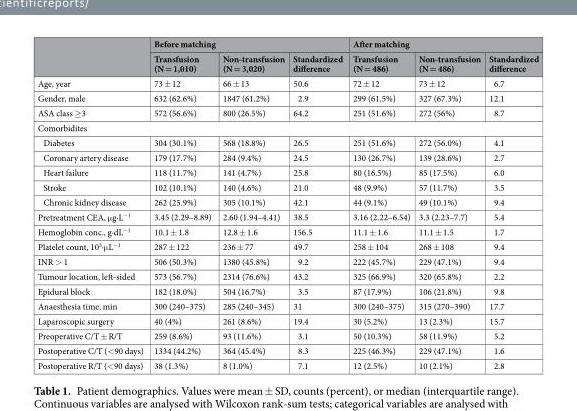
<table><thead><tr><td rowspan="2"></td><td colspan="3">Before matching</td><td colspan="3">After matching</td></tr><tr><td>Transfusion (N = 1,010)</td><td>Non-transfusion (N = 3,020)</td><td>Standardized difference</td><td>Transfusion (N = 486)</td><td>Non-transfusion (N = 486)</td><td>Standardized difference</td></tr></thead><tbody><tr><td>Age, year</td><td>73 ± 12</td><td>66 ± 13</td><td>50.6</td><td>72 ± 12</td><td>73 ± 12</td><td>6.7</td></tr><tr><td>Gender, male</td><td>632 (62.6%)</td><td>1847 (61.2%)</td><td>2.9</td><td>299 (61.5%)</td><td>327 (67.3%)</td><td>12.1</td></tr><tr><td>ASA class ≥3</td><td>572 (56.6%)</td><td>800 (26.5%)</td><td>64.2</td><td>251 (51.6%)</td><td>272 (56%)</td><td>8.7</td></tr><tr><td colspan="7">Comorbidites</td></tr><tr><td>Diabetes</td><td>304 (30.1%)</td><td>568 (18.8%)</td><td>26.5</td><td>251 (51.6%)</td><td>272 (56.0%)</td><td>4.1</td></tr><tr><td>Coronary artery disease</td><td>179 (17.7%)</td><td>284 (9.4%)</td><td>24.5</td><td>130 (26.7%)</td><td>139 (28.6%)</td><td>2.7</td></tr><tr><td>Heart failure</td><td>118 (11.7%)</td><td>141 (4.7%)</td><td>25.8</td><td>80 (16.5%)</td><td>85 (17.5%)</td><td>6.0</td></tr><tr><td>Stroke</td><td>102 (10.1%)</td><td>140 (4.6%)</td><td>21.0</td><td>48 (9.9%)</td><td>57 (11.7%)</td><td>3.5</td></tr><tr><td>Chronic kidney disease</td><td>262 (25.9%)</td><td>305 (10.1%)</td><td>42.1</td><td>44 (9.1%)</td><td>49 (10.1%)</td><td>9.4</td></tr><tr><td>Pretreatment CEA, μg·L<sup>−1</sup></td><td>3.45 (2.29–8.89)</td><td>2.60 (1.94–4.41)</td><td>38.5</td><td>3.16 (2.22–6.54)</td><td>3.3 (2.23–7.7)</td><td>5.4</td></tr><tr><td>Hemoglobin conc., g·dL<sup>−1</sup></td><td>10.1 ± 1.8</td><td>12.8 ± 1.6</td><td>156.5</td><td>11.1 ± 1.6</td><td>11.1 ± 1.5</td><td>1.7</td></tr><tr><td>Platelet count, 10<sup>3</sup>·μL<sup>−1</sup></td><td>287 ± 122</td><td>236 ± 77</td><td>49.7</td><td>258 ± 104</td><td>268 ± 108</td><td>9.4</td></tr><tr><td>INR &gt; 1</td><td>506 (50.3%)</td><td>1380 (45.8%)</td><td>9.2</td><td>222 (45.7%)</td><td>229 (47.1%)</td><td>9.4</td></tr><tr><td>Tumour location, left-sided</td><td>573 (56.7%)</td><td>2314 (76.6%)</td><td>43.2</td><td>325 (66.9%)</td><td>320 (65.8%)</td><td>2.2</td></tr><tr><td>Epidural block</td><td>182 (18.0%)</td><td>504 (16.7%)</td><td>3.5</td><td>87 (17.9%)</td><td>106 (21.8%)</td><td>9.8</td></tr><tr><td>Anaesthesia time, min</td><td>300 (240–375)</td><td>285 (240–345)</td><td>31</td><td>300 (240–375)</td><td>315 (270–390)</td><td>17.7</td></tr><tr><td>Laparoscopic surgery</td><td>40 (4%)</td><td>261 (8.6%)</td><td>19.4</td><td>30 (5.2%)</td><td>13 (2.3%)</td><td>15.7</td></tr><tr><td>Preoperative C/T ± R/T</td><td>259 (8.6%)</td><td>93 (11.6%)</td><td>3.1</td><td>50 (10.3%)</td><td>58 (11.9%)</td><td>5.2</td></tr><tr><td>Postoperative C/T (&lt;90 days)</td><td>1334 (44.2%)</td><td>364 (45.4%)</td><td>8.3</td><td>225 (46.3%)</td><td>229 (47.1%)</td><td>1.6</td></tr><tr><td>Postoperative R/T (&lt;90 days)</td><td>38 (1.3%)</td><td>8 (1.0%)</td><td>7.1</td><td>12 (2.5%)</td><td>10 (2.1%)</td><td>2.8</td></tr></tbody></table>